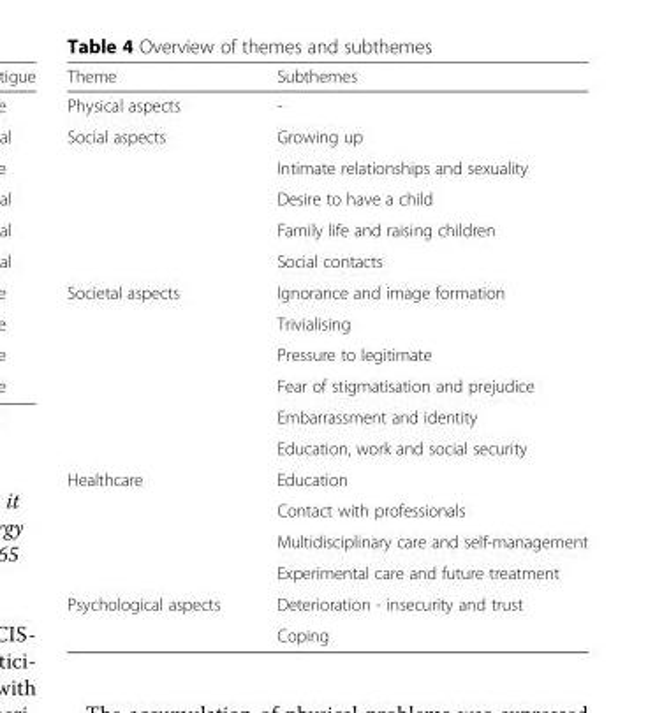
<table><thead><tr><td>Theme</td><td>Subthemes</td></tr></thead><tbody><tr><td>Physical aspects</td><td>-</td></tr><tr><td rowspan="5">Social aspects</td><td>Growing up</td></tr><tr><td>Intimate relationships and sexuality</td></tr><tr><td>Desire to have a child</td></tr><tr><td>Family life and raising children</td></tr><tr><td>Social contacts</td></tr><tr><td rowspan="6">Societal aspects</td><td>Ignorance and image formation</td></tr><tr><td>Trivialising</td></tr><tr><td>Pressure to legitimate</td></tr><tr><td>Fear of stigmatisation and prejudice</td></tr><tr><td>Embarrassment and identity</td></tr><tr><td>Education, work and social security</td></tr><tr><td rowspan="4">Healthcare</td><td>Education</td></tr><tr><td>Contact with professionals</td></tr><tr><td>Multidisciplinary care and self-management</td></tr><tr><td>Experimental care and future treatment</td></tr><tr><td rowspan="2">Psychological aspects</td><td>Deterioration - insecurity and trust</td></tr><tr><td>Coping</td></tr></tbody></table>